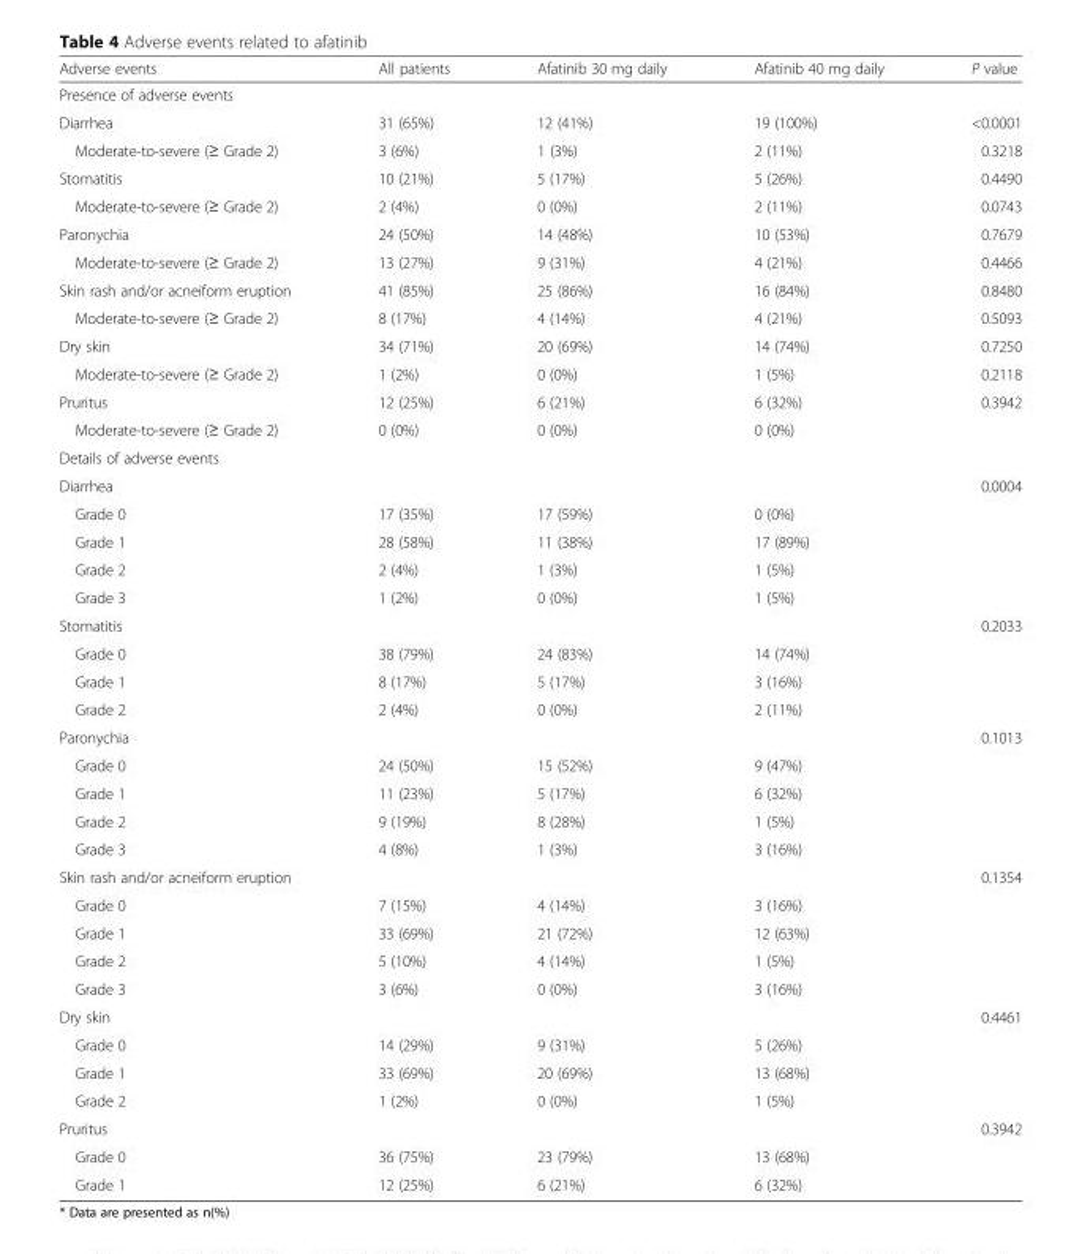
<table><thead><tr><td>Adverse events</td><td>All patients</td><td>Afatinib 30 mg daily</td><td>Afatinib 40 mg daily</td><td>P value</td></tr></thead><tbody><tr><td colspan="5">Presence of adverse events</td></tr><tr><td>Diarrhea</td><td>31 (65%)</td><td>12 (41%)</td><td>19 (100%)</td><td>&lt;0.0001</td></tr><tr><td>Moderate-to-severe (≥ Grade 2)</td><td>3 (6%)</td><td>1 (3%)</td><td>2 (11%)</td><td>0.3218</td></tr><tr><td>Stomatitis</td><td>10 (21%)</td><td>5 (17%)</td><td>5 (26%)</td><td>0.4490</td></tr><tr><td>Moderate-to-severe (≥ Grade 2)</td><td>2 (4%)</td><td>0 (0%)</td><td>2 (11%)</td><td>0.0743</td></tr><tr><td>Paronychia</td><td>24 (50%)</td><td>14 (48%)</td><td>10 (53%)</td><td>0.7679</td></tr><tr><td>Moderate-to-severe (≥ Grade 2)</td><td>13 (27%)</td><td>9 (31%)</td><td>4 (21%)</td><td>0.4466</td></tr><tr><td>Skin rash and/or acneiform eruption</td><td>41 (85%)</td><td>25 (86%)</td><td>16 (84%)</td><td>0.8480</td></tr><tr><td>Moderate-to-severe (≥ Grade 2)</td><td>8 (17%)</td><td>4 (14%)</td><td>4 (21%)</td><td>0.5093</td></tr><tr><td>Dry skin</td><td>34 (71%)</td><td>20 (69%)</td><td>14 (74%)</td><td>0.7250</td></tr><tr><td>Moderate-to-severe (≥ Grade 2)</td><td>1 (2%)</td><td>0 (0%)</td><td>1 (5%)</td><td>0.2118</td></tr><tr><td>Pruritus</td><td>12 (25%)</td><td>6 (21%)</td><td>6 (32%)</td><td>0.3942</td></tr><tr><td>Moderate-to-severe (≥ Grade 2)</td><td>0 (0%)</td><td>0 (0%)</td><td>0 (0%)</td><td></td></tr><tr><td colspan="5">Details of adverse events</td></tr><tr><td>Diarrhea</td><td></td><td></td><td></td><td>0.0004</td></tr><tr><td>Grade 0</td><td>17 (35%)</td><td>17 (59%)</td><td>0 (0%)</td><td></td></tr><tr><td>Grade 1</td><td>28 (58%)</td><td>11 (38%)</td><td>17 (89%)</td><td></td></tr><tr><td>Grade 2</td><td>2 (4%)</td><td>1 (3%)</td><td>1 (5%)</td><td></td></tr><tr><td>Grade 3</td><td>1 (2%)</td><td>0 (0%)</td><td>1 (5%)</td><td></td></tr><tr><td>Stomatitis</td><td></td><td></td><td></td><td>0.2033</td></tr><tr><td>Grade 0</td><td>38 (79%)</td><td>24 (83%)</td><td>14 (74%)</td><td></td></tr><tr><td>Grade 1</td><td>8 (17%)</td><td>5 (17%)</td><td>3 (16%)</td><td></td></tr><tr><td>Grade 2</td><td>2 (4%)</td><td>0 (0%)</td><td>2 (11%)</td><td></td></tr><tr><td>Paronychia</td><td></td><td></td><td></td><td>0.1013</td></tr><tr><td>Grade 0</td><td>24 (50%)</td><td>15 (52%)</td><td>9 (47%)</td><td></td></tr><tr><td>Grade 1</td><td>11 (23%)</td><td>5 (17%)</td><td>6 (32%)</td><td></td></tr><tr><td>Grade 2</td><td>9 (19%)</td><td>8 (28%)</td><td>1 (5%)</td><td></td></tr><tr><td>Grade 3</td><td>4 (8%)</td><td>1 (3%)</td><td>3 (16%)</td><td></td></tr><tr><td>Skin rash and/or acneiform eruption</td><td></td><td></td><td></td><td>0.1354</td></tr><tr><td>Grade 0</td><td>7 (15%)</td><td>4 (14%)</td><td>3 (16%)</td><td></td></tr><tr><td>Grade 1</td><td>33 (69%)</td><td>21 (72%)</td><td>12 (63%)</td><td></td></tr><tr><td>Grade 2</td><td>5 (10%)</td><td>4 (14%)</td><td>1 (5%)</td><td></td></tr><tr><td>Grade 3</td><td>3 (6%)</td><td>0 (0%)</td><td>3 (16%)</td><td></td></tr><tr><td>Dry skin</td><td></td><td></td><td></td><td>0.4461</td></tr><tr><td>Grade 0</td><td>14 (29%)</td><td>9 (31%)</td><td>5 (26%)</td><td></td></tr><tr><td>Grade 1</td><td>33 (69%)</td><td>20 (69%)</td><td>13 (68%)</td><td></td></tr><tr><td>Grade 2</td><td>1 (2%)</td><td>0 (0%)</td><td>1 (5%)</td><td></td></tr><tr><td>Pruritus</td><td></td><td></td><td></td><td>0.3942</td></tr><tr><td>Grade 0</td><td>36 (75%)</td><td>23 (79%)</td><td>13 (68%)</td><td></td></tr><tr><td>Grade 1</td><td>12 (25%)</td><td>6 (21%)</td><td>6 (32%)</td><td></td></tr></tbody></table>